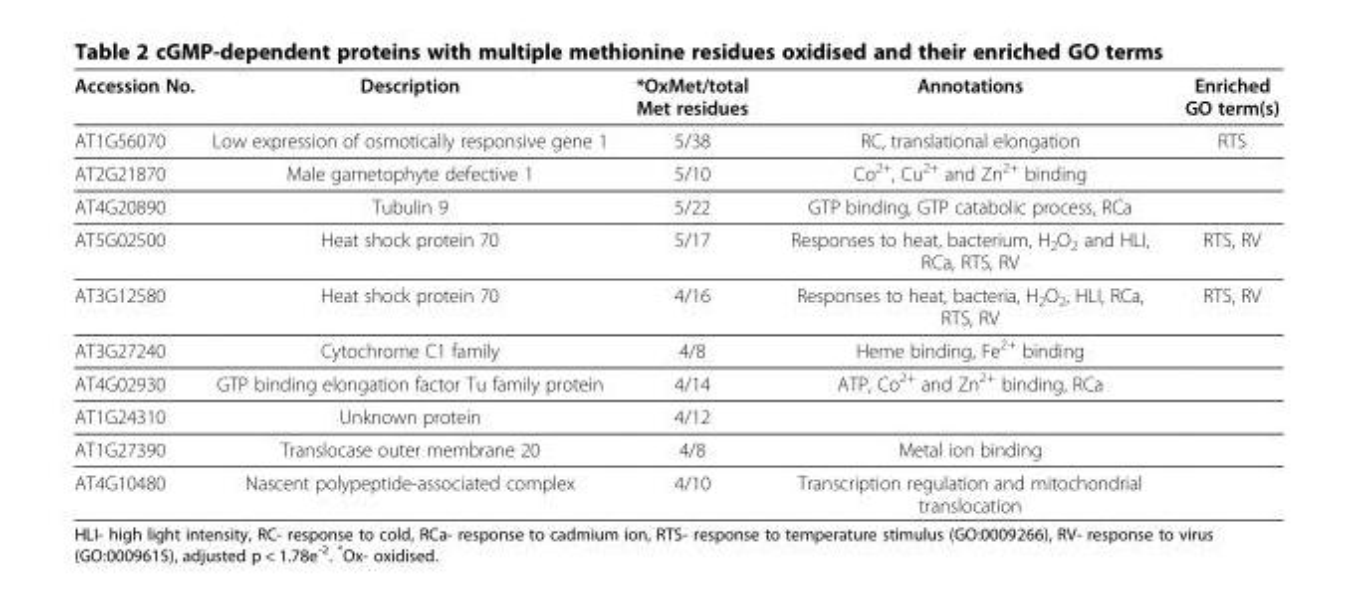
<table><thead><tr><td>Accession No.</td><td>Description</td><td>*OxMet/total Met residues</td><td>Annotations</td><td>Enriched GO term(s)</td></tr></thead><tbody><tr><td>AT1G56070</td><td>Low expression of osmotically responsive gene 1</td><td>5/38</td><td>RC, translational elongation</td><td>RTS</td></tr><tr><td>AT2G21870</td><td>Male gametophyte defective 1</td><td>5/10</td><td>Co<sup>2+</sup>, Cu<sup>2+</sup> and Zn<sup>2+</sup> binding</td><td></td></tr><tr><td>AT4G20890</td><td>Tubulin 9</td><td>5/22</td><td>GTP binding, GTP catabolic process, RCa</td><td></td></tr><tr><td>AT5G02500</td><td>Heat shock protein 70</td><td>5/17</td><td>Responses to heat, bacterium, H<sub>2</sub>O<sub>2</sub> and HLI, RCa, RTS, RV</td><td>RTS, RV</td></tr><tr><td>AT3G12580</td><td>Heat shock protein 70</td><td>4/16</td><td>Responses to heat, bacteria, H<sub>2</sub>O<sub>2</sub>, HLI, RCa, RTS, RV</td><td>RTS, RV</td></tr><tr><td>AT3G27240</td><td>Cytochrome C1 family</td><td>4/8</td><td>Heme binding, Fe<sup>2+</sup> binding</td><td></td></tr><tr><td>AT4G02930</td><td>GTP binding elongation factor Tu family protein</td><td>4/14</td><td>ATP, Co<sup>2+</sup> and Zn<sup>2+</sup> binding, RCa</td><td></td></tr><tr><td>AT1G24310</td><td>Unknown protein</td><td>4/12</td><td></td><td></td></tr><tr><td>AT1G27390</td><td>Translocase outer membrane 20</td><td>4/8</td><td>Metal ion binding</td><td></td></tr><tr><td>AT4G10480</td><td>Nascent polypeptide-associated complex</td><td>4/10</td><td>Transcription regulation and mitochondrial translocation</td><td></td></tr></tbody></table>